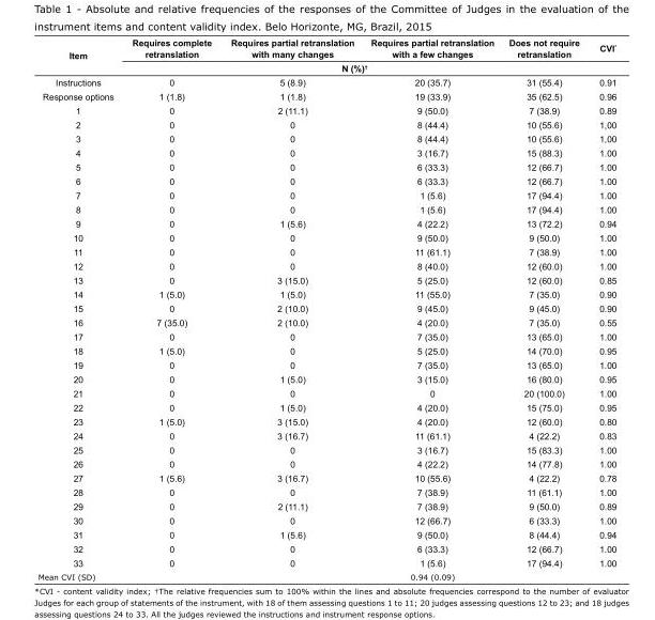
<table><tbody><tr><td rowspan="2">Item</td><td>Requires complete retranslation</td><td>Requires partial retranslation with many changes</td><td>Requires partial retranslation with a few changes</td><td>Does not require retranslation</td><td>CVI*</td></tr><tr><td colspan="4">N (%)<sup>†</sup></td><td></td></tr><tr><td>Instructions</td><td>0</td><td>5 (8.9)</td><td>20 (35.7)</td><td>31 (55.4)</td><td>0.91</td></tr><tr><td>Response options</td><td>1 (1.8)</td><td>1 (1.8)</td><td>19 (33.9)</td><td>35 (62.5)</td><td>0.96</td></tr><tr><td>1</td><td>0</td><td>2 (11.1)</td><td>9 (50.0)</td><td>7 (38.9)</td><td>0.89</td></tr><tr><td>2</td><td>0</td><td>0</td><td>8 (44.4)</td><td>10 (55.6)</td><td>1,00</td></tr><tr><td>3</td><td>0</td><td>0</td><td>8 (44.4)</td><td>10 (55.6)</td><td>1,00</td></tr><tr><td>4</td><td>0</td><td>0</td><td>3 (16.7)</td><td>15 (88.3)</td><td>1.00</td></tr><tr><td>5</td><td>0</td><td>0</td><td>6 (33.3)</td><td>12 (66.7)</td><td>1.00</td></tr><tr><td>6</td><td>0</td><td>0</td><td>6 (33.3)</td><td>12 (66.7)</td><td>1.00</td></tr><tr><td>7</td><td>0</td><td>0</td><td>1 (5.6)</td><td>17 (94.4)</td><td>1.00</td></tr><tr><td>8</td><td>0</td><td>0</td><td>1 (5.6)</td><td>17 (94.4)</td><td>1.00</td></tr><tr><td>9</td><td>0</td><td>1 (5.6)</td><td>4 (22.2)</td><td>13 (72.2)</td><td>0.94</td></tr><tr><td>10</td><td>0</td><td>0</td><td>9 (50.0)</td><td>9 (50.0)</td><td>1.00</td></tr><tr><td>11</td><td>0</td><td>0</td><td>11 (61.1)</td><td>7 (38.9)</td><td>1.00</td></tr><tr><td>12</td><td>0</td><td>0</td><td>8 (40.0)</td><td>12 (60.0)</td><td>1.00</td></tr><tr><td>13</td><td>0</td><td>3 (15.0)</td><td>5 (25.0)</td><td>12 (60.0)</td><td>0.85</td></tr><tr><td>14</td><td>1 (5.0)</td><td>1 (5.0)</td><td>11 (55.0)</td><td>7 (35.0)</td><td>0.90</td></tr><tr><td>15</td><td>0</td><td>2 (10.0)</td><td>9 (45.0)</td><td>9 (45.0)</td><td>0.90</td></tr><tr><td>16</td><td>7 (35.0)</td><td>2 (10.0)</td><td>4 (20.0)</td><td>7 (35.0)</td><td>0.55</td></tr><tr><td>17</td><td>0</td><td>0</td><td>7 (35.0)</td><td>13 (65.0)</td><td>1.00</td></tr><tr><td>18</td><td>1 (5.0)</td><td>0</td><td>5 (25.0)</td><td>14 (70.0)</td><td>0.95</td></tr><tr><td>19</td><td>0</td><td>0</td><td>7 (35.0)</td><td>13 (65.0)</td><td>1.00</td></tr><tr><td>20</td><td>0</td><td>1 (5.0)</td><td>3 (15.0)</td><td>16 (80.0)</td><td>0.95</td></tr><tr><td>21</td><td>0</td><td>0</td><td>0</td><td>20 (100.0)</td><td>1.00</td></tr><tr><td>22</td><td>0</td><td>1 (5.0)</td><td>4 (20.0)</td><td>15 (75.0)</td><td>0.95</td></tr><tr><td>23</td><td>1 (5.0)</td><td>3 (15.0)</td><td>4 (20.0)</td><td>12 (60.0)</td><td>0.80</td></tr><tr><td>24</td><td>0</td><td>3 (16.7)</td><td>11 (61.1)</td><td>4 (22.2)</td><td>0.83</td></tr><tr><td>25</td><td>0</td><td>0</td><td>3 (16.7)</td><td>15 (83.3)</td><td>1.00</td></tr><tr><td>26</td><td>0</td><td>0</td><td>4 (22.2)</td><td>14 (77.8)</td><td>1.00</td></tr><tr><td>27</td><td>1 (5.6)</td><td>3 (16.7)</td><td>10 (55.6)</td><td>4 (22.2)</td><td>0.78</td></tr><tr><td>28</td><td>0</td><td>0</td><td>7 (38.9)</td><td>11 (61.1)</td><td>1.00</td></tr><tr><td>29</td><td>0</td><td>2 (11.1)</td><td>7 (38.9)</td><td>9 (50.0)</td><td>0.89</td></tr><tr><td>30</td><td>0</td><td>0</td><td>12 (66.7)</td><td>6 (33.3)</td><td>1.00</td></tr><tr><td>31</td><td>0</td><td>1 (5.6)</td><td>9 (50.0)</td><td>8 (44.4)</td><td>0.94</td></tr><tr><td>32</td><td>0</td><td>0</td><td>6 (33.3)</td><td>12 (66.7)</td><td>1.00</td></tr><tr><td>33</td><td>0</td><td>0</td><td>1 (5.6)</td><td>17 (94.4)</td><td>1.00</td></tr><tr><td>Mean CVI (SD)</td><td></td><td></td><td>0.94 (0.09)</td><td></td><td></td></tr></tbody></table>